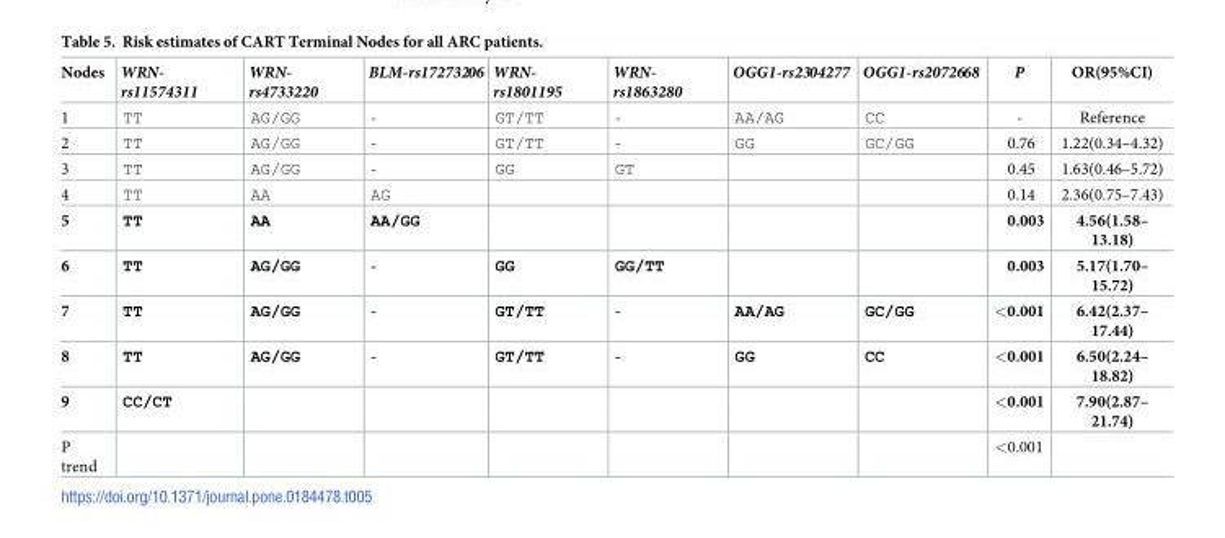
<table><thead><tr><td>Nodes</td><td>WRN- rs11574311</td><td>WRN- rs4733220</td><td>BLM-rs17273206</td><td>WRN- rs1801195</td><td>WRN- rs1863280</td><td>OGG1-rs2304277</td><td>OGG1-rs2072668</td><td>P</td><td>OR(95%CI)</td></tr></thead><tbody><tr><td>1</td><td>TT</td><td>AG/GG</td><td>-</td><td>GT/TT</td><td>-</td><td>AA/AG</td><td>CC</td><td>-</td><td>Reference</td></tr><tr><td>2</td><td>TT</td><td>AG/GG</td><td>-</td><td>GT/TT</td><td>-</td><td>GG</td><td>GC/GG</td><td>0.76</td><td>1.22(0.34–4.32)</td></tr><tr><td>3</td><td>TT</td><td>AG/GG</td><td>-</td><td>GG</td><td>GT</td><td></td><td></td><td>0.45</td><td>1.63(0.46–5.72)</td></tr><tr><td>4</td><td>TT</td><td>AA</td><td>AG</td><td></td><td></td><td></td><td></td><td>0.14</td><td>2.36(0.75–7.43)</td></tr><tr><td>5</td><td>TT</td><td>AA</td><td>AA/GG</td><td></td><td></td><td></td><td></td><td>0.003</td><td>4.56(1.58– 13.18)</td></tr><tr><td>6</td><td>TT</td><td>AG/GG</td><td>-</td><td>GG</td><td>GG/TT</td><td></td><td></td><td>0.003</td><td>5.17(1.70– 15.72)</td></tr><tr><td>7</td><td>TT</td><td>AG/GG</td><td>-</td><td>GT/TT</td><td>-</td><td>AA/AG</td><td>GC/GG</td><td>&lt;0.001</td><td>6.42(2.37– 17.44)</td></tr><tr><td>8</td><td>TT</td><td>AG/GG</td><td>-</td><td>GT/TT</td><td>-</td><td>GG</td><td>CC</td><td>&lt;0.001</td><td>6.50(2.24– 18.82)</td></tr><tr><td>9</td><td>CC/CT</td><td></td><td></td><td></td><td></td><td></td><td></td><td>&lt;0.001</td><td>7.90(2.87– 21.74)</td></tr><tr><td>P trend</td><td></td><td></td><td></td><td></td><td></td><td></td><td></td><td>&lt;0.001</td><td></td></tr></tbody></table>